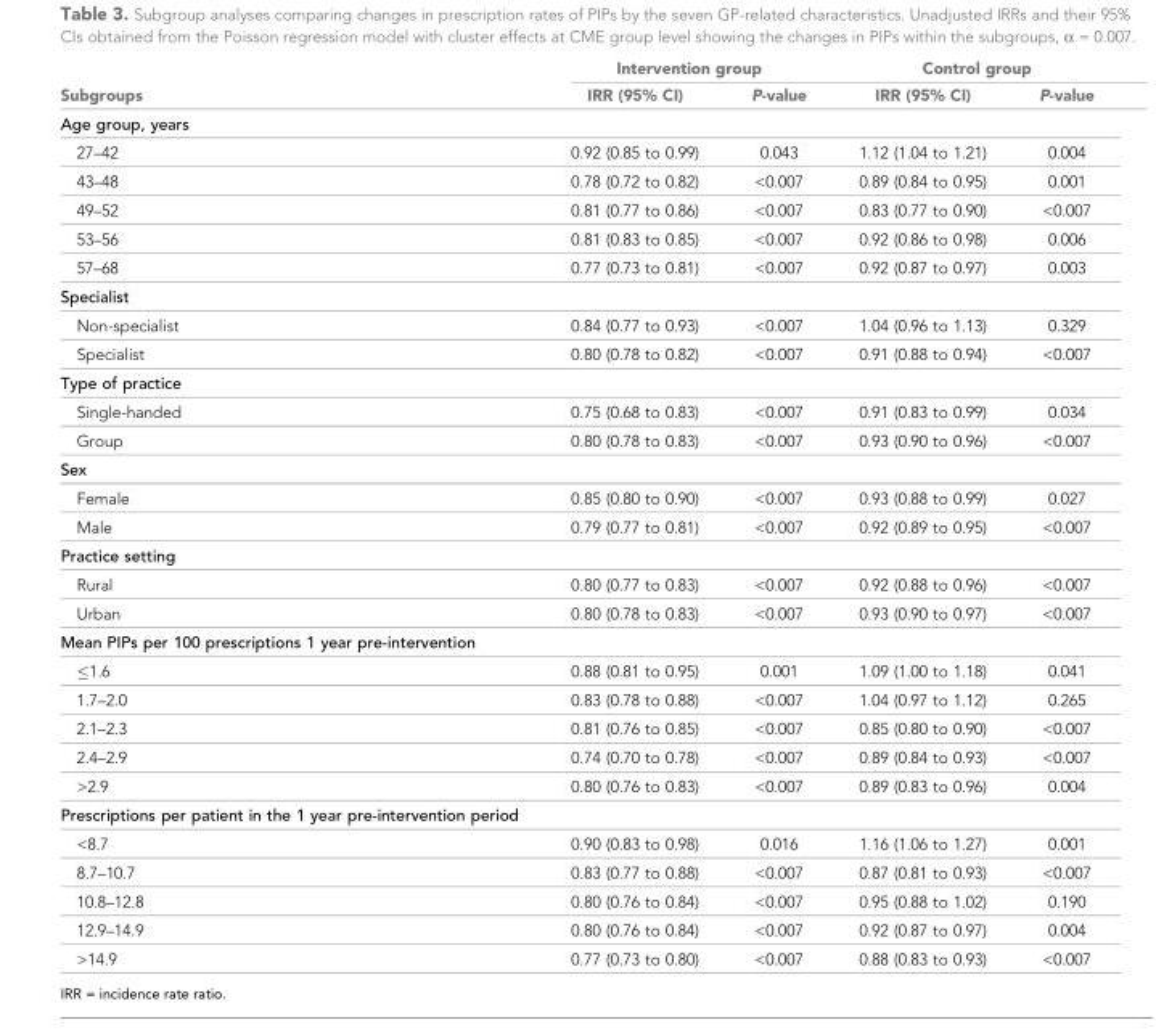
<table><thead><tr><td rowspan="2">Subgroups</td><td colspan="2">Intervention group</td><td colspan="2">Control group</td></tr><tr><td>IRR (95% CI)</td><td>P-value</td><td>IRR (95% CI)</td><td>P-value</td></tr></thead><tbody><tr><td colspan="5">Age group, years</td></tr><tr><td>27–42</td><td>0.92 (0.85 to 0.99)</td><td>0.043</td><td>1.12 (1.04 to 1.21)</td><td>0.004</td></tr><tr><td>43–48</td><td>0.78 (0.72 to 0.82)</td><td>&lt;0.007</td><td>0.89 (0.84 to 0.95)</td><td>0.001</td></tr><tr><td>49–52</td><td>0.81 (0.77 to 0.86)</td><td>&lt;0.007</td><td>0.83 (0.77 to 0.90)</td><td>&lt;0.007</td></tr><tr><td>53–56</td><td>0.81 (0.83 to 0.85)</td><td>&lt;0.007</td><td>0.92 (0.86 to 0.98)</td><td>0.006</td></tr><tr><td>57–68</td><td>0.77 (0.73 to 0.81)</td><td>&lt;0.007</td><td>0.92 (0.87 to 0.97)</td><td>0.003</td></tr><tr><td colspan="5">Specialist</td></tr><tr><td>Non-specialist</td><td>0.84 (0.77 to 0.93)</td><td>&lt;0.007</td><td>1.04 (0.96 to 1.13)</td><td>0.329</td></tr><tr><td>Specialist</td><td>0.80 (0.78 to 0.82)</td><td>&lt;0.007</td><td>0.91 (0.88 to 0.94)</td><td>&lt;0.007</td></tr><tr><td colspan="5">Type of practice</td></tr><tr><td>Single-handed</td><td>0.75 (0.68 to 0.83)</td><td>&lt;0.007</td><td>0.91 (0.83 to 0.99)</td><td>0.034</td></tr><tr><td>Group</td><td>0.80 (0.78 to 0.83)</td><td>&lt;0.007</td><td>0.93 (0.90 to 0.96)</td><td>&lt;0.007</td></tr><tr><td colspan="5">Sex</td></tr><tr><td>Female</td><td>0.85 (0.80 to 0.90)</td><td>&lt;0.007</td><td>0.93 (0.88 to 0.99)</td><td>0.027</td></tr><tr><td>Male</td><td>0.79 (0.77 to 0.81)</td><td>&lt;0.007</td><td>0.92 (0.89 to 0.95)</td><td>&lt;0.007</td></tr><tr><td colspan="5">Practice setting</td></tr><tr><td>Rural</td><td>0.80 (0.77 to 0.83)</td><td>&lt;0.007</td><td>0.92 (0.88 to 0.96)</td><td>&lt;0.007</td></tr><tr><td>Urban</td><td>0.80 (0.78 to 0.83)</td><td>&lt;0.007</td><td>0.93 (0.90 to 0.97)</td><td>&lt;0.007</td></tr><tr><td colspan="5">Mean PIPs per 100 prescriptions 1 year pre-intervention</td></tr><tr><td>≤1.6</td><td>0.88 (0.81 to 0.95)</td><td>0.001</td><td>1.09 (1.00 to 1.18)</td><td>0.041</td></tr><tr><td>1.7–2.0</td><td>0.83 (0.78 to 0.88)</td><td>&lt;0.007</td><td>1.04 (0.97 to 1.12)</td><td>0.265</td></tr><tr><td>2.1–2.3</td><td>0.81 (0.76 to 0.85)</td><td>&lt;0.007</td><td>0.85 (0.80 to 0.90)</td><td>&lt;0.007</td></tr><tr><td>2.4–2.9</td><td>0.74 (0.70 to 0.78)</td><td>&lt;0.007</td><td>0.89 (0.84 to 0.93)</td><td>&lt;0.007</td></tr><tr><td>&gt;2.9</td><td>0.80 (0.76 to 0.83)</td><td>&lt;0.007</td><td>0.89 (0.83 to 0.96)</td><td>0.004</td></tr><tr><td colspan="5">Prescriptions per patient in the 1 year pre-intervention period</td></tr><tr><td>&lt;8.7</td><td>0.90 (0.83 to 0.98)</td><td>0.016</td><td>1.16 (1.06 to 1.27)</td><td>0.001</td></tr><tr><td>8.7–10.7</td><td>0.83 (0.77 to 0.88)</td><td>&lt;0.007</td><td>0.87 (0.81 to 0.93)</td><td>&lt;0.007</td></tr><tr><td>10.8–12.8</td><td>0.80 (0.76 to 0.84)</td><td>&lt;0.007</td><td>0.95 (0.88 to 1.02)</td><td>0.190</td></tr><tr><td>12.9–14.9</td><td>0.80 (0.76 to 0.84)</td><td>&lt;0.007</td><td>0.92 (0.87 to 0.97)</td><td>0.004</td></tr><tr><td>&gt;14.9</td><td>0.77 (0.73 to 0.80)</td><td>&lt;0.007</td><td>0.88 (0.83 to 0.93)</td><td>&lt;0.007</td></tr></tbody></table>